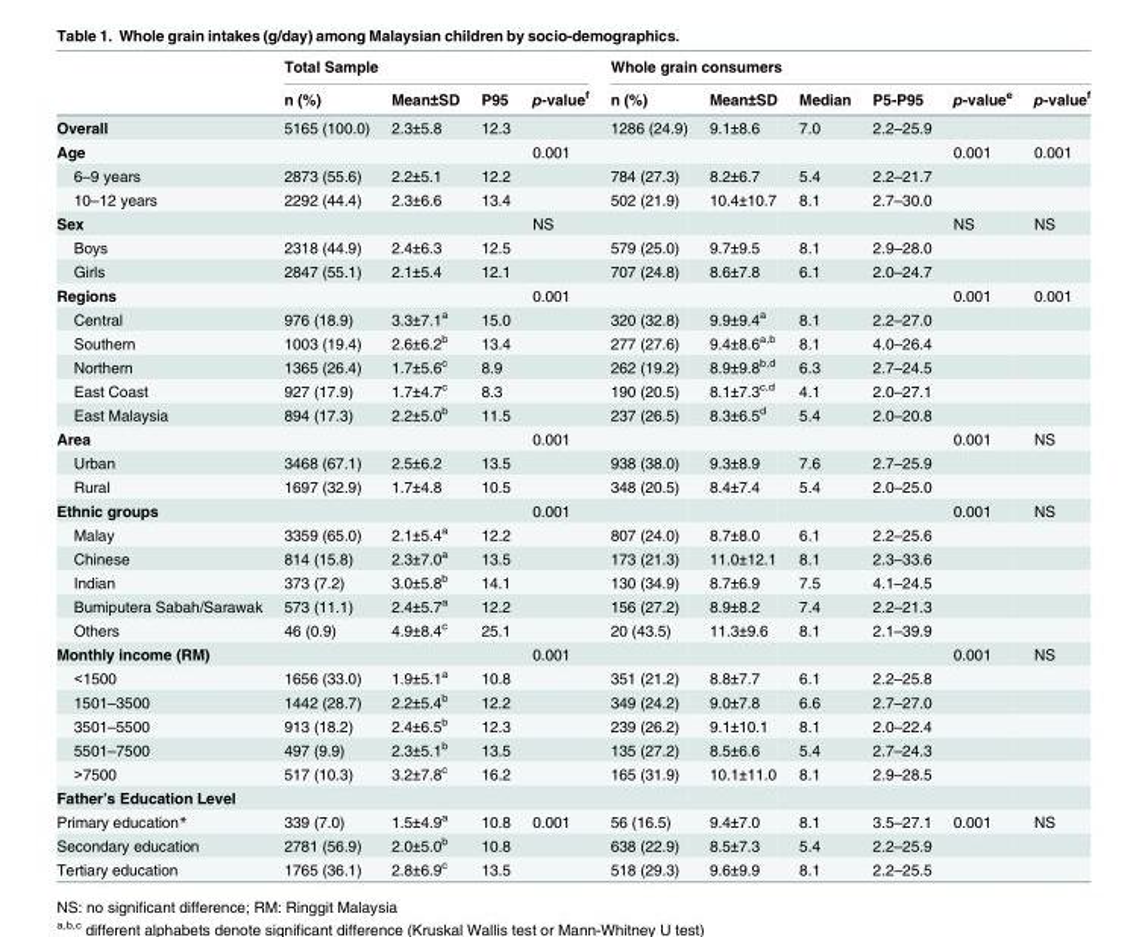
<table><thead><tr><td rowspan="2"></td><td colspan="4">Total Sample</td><td colspan="6">Whole grain consumers</td></tr><tr><td>n (%)</td><td>Mean±SD</td><td>P95</td><td>p-value<sup>f</sup></td><td>n (%)</td><td>Mean±SD</td><td>Median</td><td>P5-P95</td><td>p-value<sup>e</sup></td><td>p-value<sup>f</sup></td></tr></thead><tbody><tr><td>Overall</td><td>5165 (100.0)</td><td>2.3±5.8</td><td>12.3</td><td></td><td>1286 (24.9)</td><td>9.1±8.6</td><td>7.0</td><td>2.2–25.9</td><td></td><td></td></tr><tr><td>Age</td><td></td><td></td><td></td><td>0.001</td><td></td><td></td><td></td><td></td><td>0.001</td><td>0.001</td></tr><tr><td>6–9 years</td><td>2873 (55.6)</td><td>2.2±5.1</td><td>12.2</td><td></td><td>784 (27.3)</td><td>8.2±6.7</td><td>5.4</td><td>2.2–21.7</td><td></td><td></td></tr><tr><td>10–12 years</td><td>2292 (44.4)</td><td>2.3±6.6</td><td>13.4</td><td></td><td>502 (21.9)</td><td>10.4±10.7</td><td>8.1</td><td>2.7–30.0</td><td></td><td></td></tr><tr><td>Sex</td><td></td><td></td><td></td><td>NS</td><td></td><td></td><td></td><td></td><td>NS</td><td>NS</td></tr><tr><td>Boys</td><td>2318 (44.9)</td><td>2.4±6.3</td><td>12.5</td><td></td><td>579 (25.0)</td><td>9.7±9.5</td><td>8.1</td><td>2.9–28.0</td><td></td><td></td></tr><tr><td>Girls</td><td>2847 (55.1)</td><td>2.1±5.4</td><td>12.1</td><td></td><td>707 (24.8)</td><td>8.6±7.8</td><td>6.1</td><td>2.0–24.7</td><td></td><td></td></tr><tr><td>Regions</td><td></td><td></td><td></td><td>0.001</td><td></td><td></td><td></td><td></td><td>0.001</td><td>0.001</td></tr><tr><td>Central</td><td>976 (18.9)</td><td>3.3±7.1<sup>a</sup></td><td>15.0</td><td></td><td>320 (32.8)</td><td>9.9±9.4<sup>a</sup></td><td>8.1</td><td>2.2–27.0</td><td></td><td></td></tr><tr><td>Southern</td><td>1003 (19.4)</td><td>2.6±6.2<sup>b</sup></td><td>13.4</td><td></td><td>277 (27.6)</td><td>9.4±8.6<sup>a,b</sup></td><td>8.1</td><td>4.0–26.4</td><td></td><td></td></tr><tr><td>Northern</td><td>1365 (26.4)</td><td>1.7±5.6<sup>c</sup></td><td>8.9</td><td></td><td>262 (19.2)</td><td>8.9±9.8<sup>b,d</sup></td><td>6.3</td><td>2.7–24.5</td><td></td><td></td></tr><tr><td>East Coast</td><td>927 (17.9)</td><td>1.7±4.7<sup>c</sup></td><td>8.3</td><td></td><td>190 (20.5)</td><td>8.1±7.3<sup>c,d</sup></td><td>4.1</td><td>2.0–27.1</td><td></td><td></td></tr><tr><td>East Malaysia</td><td>894 (17.3)</td><td>2.2±5.0<sup>b</sup></td><td>11.5</td><td></td><td>237 (26.5)</td><td>8.3±6.5<sup>d</sup></td><td>5.4</td><td>2.0–20.8</td><td></td><td></td></tr><tr><td>Area</td><td></td><td></td><td></td><td>0.001</td><td></td><td></td><td></td><td></td><td>0.001</td><td>NS</td></tr><tr><td>Urban</td><td>3468 (67.1)</td><td>2.5±6.2</td><td>13.5</td><td></td><td>938 (38.0)</td><td>9.3±8.9</td><td>7.6</td><td>2.7–25.9</td><td></td><td></td></tr><tr><td>Rural</td><td>1697 (32.9)</td><td>1.7±4.8</td><td>10.5</td><td></td><td>348 (20.5)</td><td>8.4±7.4</td><td>5.4</td><td>2.0–25.0</td><td></td><td></td></tr><tr><td>Ethnic groups</td><td></td><td></td><td></td><td>0.001</td><td></td><td></td><td></td><td></td><td>0.001</td><td>NS</td></tr><tr><td>Malay</td><td>3359 (65.0)</td><td>2.1±5.4<sup>a</sup></td><td>12.2</td><td></td><td>807 (24.0)</td><td>8.7±8.0</td><td>6.1</td><td>2.2–25.6</td><td></td><td></td></tr><tr><td>Chinese</td><td>814 (15.8)</td><td>2.3±7.0<sup>a</sup></td><td>13.5</td><td></td><td>173 (21.3)</td><td>11.0±12.1</td><td>8.1</td><td>2.3–33.6</td><td></td><td></td></tr><tr><td>Indian</td><td>373 (7.2)</td><td>3.0±5.8<sup>b</sup></td><td>14.1</td><td></td><td>130 (34.9)</td><td>8.7±6.9</td><td>7.5</td><td>4.1–24.5</td><td></td><td></td></tr><tr><td>Bumiputera Sabah/Sarawak</td><td>573 (11.1)</td><td>2.4±5.7<sup>a</sup></td><td>12.2</td><td></td><td>156 (27.2)</td><td>8.9±8.2</td><td>7.4</td><td>2.2–21.3</td><td></td><td></td></tr><tr><td>Others</td><td>46 (0.9)</td><td>4.9±8.4<sup>c</sup></td><td>25.1</td><td></td><td>20 (43.5)</td><td>11.3±9.6</td><td>8.1</td><td>2.1–39.9</td><td></td><td></td></tr><tr><td>Monthly income (RM)</td><td></td><td></td><td></td><td>0.001</td><td></td><td></td><td></td><td></td><td>0.001</td><td>NS</td></tr><tr><td>&lt;1500</td><td>1656 (33.0)</td><td>1.9±5.1<sup>a</sup></td><td>10.8</td><td></td><td>351 (21.2)</td><td>8.8±7.7</td><td>6.1</td><td>2.2–25.8</td><td></td><td></td></tr><tr><td>1501–3500</td><td>1442 (28.7)</td><td>2.2±5.4<sup>b</sup></td><td>12.2</td><td></td><td>349 (24.2)</td><td>9.0±7.8</td><td>6.6</td><td>2.7–27.0</td><td></td><td></td></tr><tr><td>3501–5500</td><td>913 (18.2)</td><td>2.4±6.5<sup>b</sup></td><td>12.3</td><td></td><td>239 (26.2)</td><td>9.1±10.1</td><td>8.1</td><td>2.0–22.4</td><td></td><td></td></tr><tr><td>5501–7500</td><td>497 (9.9)</td><td>2.3±5.1<sup>b</sup></td><td>13.5</td><td></td><td>135 (27.2)</td><td>8.5±6.6</td><td>5.4</td><td>2.7–24.3</td><td></td><td></td></tr><tr><td>&gt;7500</td><td>517 (10.3)</td><td>3.2±7.8<sup>c</sup></td><td>16.2</td><td></td><td>165 (31.9)</td><td>10.1±11.0</td><td>8.1</td><td>2.9–28.5</td><td></td><td></td></tr><tr><td colspan="11">Father’s Education Level</td></tr><tr><td>Primary education*</td><td>339 (7.0)</td><td>1.5±4.9<sup>a</sup></td><td>10.8</td><td>0.001</td><td>56 (16.5)</td><td>9.4±7.0</td><td>8.1</td><td>3.5–27.1</td><td>0.001</td><td>NS</td></tr><tr><td>Secondary education</td><td>2781 (56.9)</td><td>2.0±5.0<sup>b</sup></td><td>10.8</td><td></td><td>638 (22.9)</td><td>8.5±7.3</td><td>5.4</td><td>2.2–25.9</td><td></td><td></td></tr><tr><td>Tertiary education</td><td>1765 (36.1)</td><td>2.8±6.9<sup>c</sup></td><td>13.5</td><td></td><td>518 (29.3)</td><td>9.6±9.9</td><td>8.1</td><td>2.2–25.5</td><td></td><td></td></tr></tbody></table>